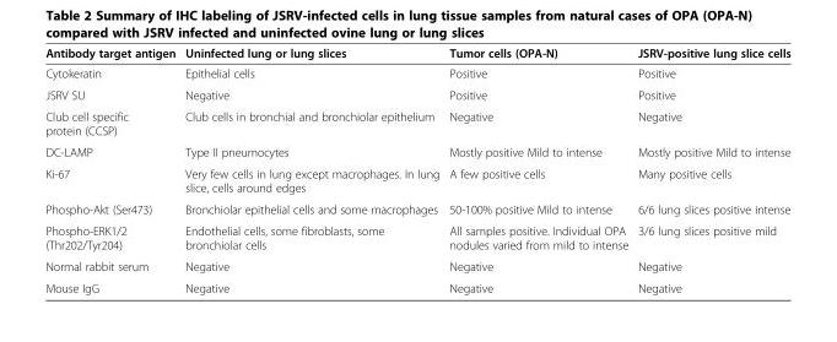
<table><thead><tr><td>Antibody target antigen</td><td>Uninfected lung or lung slices</td><td>Tumor cells (OPA-N)</td><td>JSRV-positive lung slice cells</td></tr></thead><tbody><tr><td>Cytokeratin</td><td>Epithelial cells</td><td>Positive</td><td>Positive</td></tr><tr><td>JSRV SU</td><td>Negative</td><td>Positive</td><td>Positive</td></tr><tr><td>Club cell specific protein (CCSP)</td><td>Club cells in bronchial and bronchiolar epithelium</td><td>Negative</td><td>Negative</td></tr><tr><td>DC-LAMP</td><td>Type II pneumocytes</td><td>Mostly positive Mild to intense</td><td>Mostly positive Mild to intense</td></tr><tr><td>Ki-67</td><td>Very few cells in lung except macrophages. In lung slice, cells around edges</td><td>A few positive cells</td><td>Many positive cells</td></tr><tr><td>Phospho-Akt (Ser473)</td><td>Bronchiolar epithelial cells and some macrophages</td><td>50-100% positive Mild to intense</td><td>6/6 lung slices positive intense</td></tr><tr><td>Phospho-ERK1/2 (Thr202/Tyr204)</td><td>Endothelial cells, some fibroblasts, some bronchiolar cells</td><td>All samples positive. Individual OPA nodules varied from mild to intense</td><td>3/6 lung slices positive mild</td></tr><tr><td>Normal rabbit serum</td><td>Negative</td><td>Negative</td><td>Negative</td></tr><tr><td>Mouse IgG</td><td>Negative</td><td>Negative</td><td>Negative</td></tr></tbody></table>